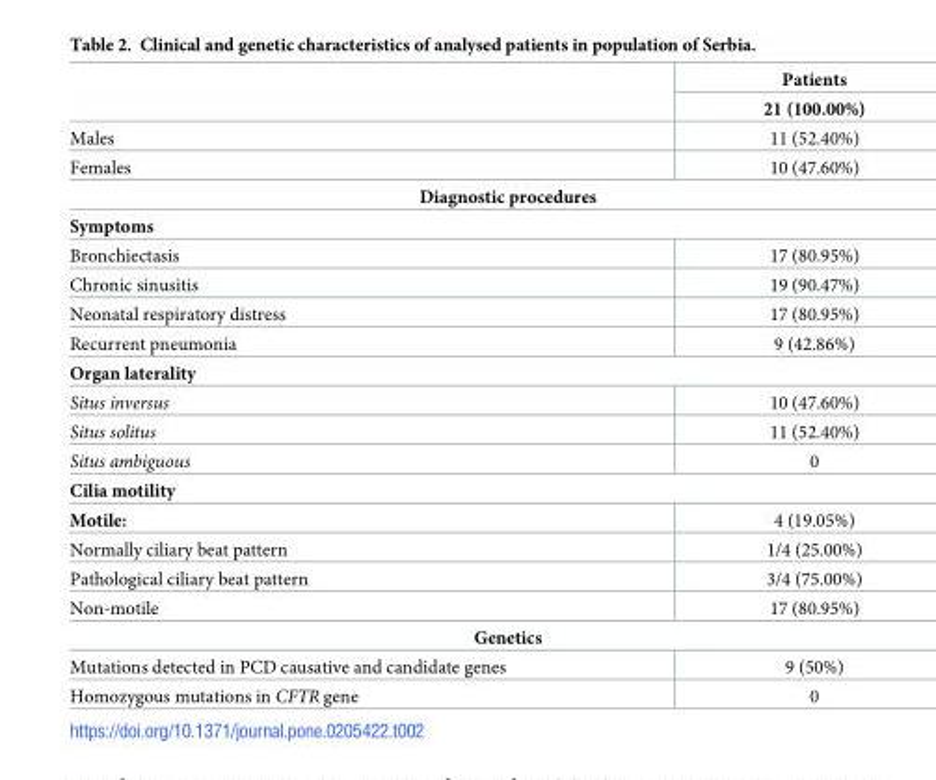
<table><thead><tr><td rowspan="2"></td><td rowspan="2">Patients 21 (100.00%)</td></tr><tr></tr></thead><tbody><tr><td>Males</td><td>11 (52.40%)</td></tr><tr><td>Females</td><td>10 (47.60%)</td></tr><tr><td colspan="2">Diagnostic procedures</td></tr><tr><td colspan="2">Symptoms</td></tr><tr><td>Bronchiectasis</td><td>17 (80.95%)</td></tr><tr><td>Chronic sinusitis</td><td>19 (90.47%)</td></tr><tr><td>Neonatal respiratory distress</td><td>17 (80.95%)</td></tr><tr><td>Recurrent pneumonia</td><td>9 (42.86%)</td></tr><tr><td colspan="2">Organ laterality</td></tr><tr><td>Situs inversus</td><td>10 (47.60%)</td></tr><tr><td>Situs solitus</td><td>11 (52.40%)</td></tr><tr><td>Situs ambiguous</td><td>0</td></tr><tr><td colspan="2">Cilia motility</td></tr><tr><td>Motile:</td><td>4 (19.05%)</td></tr><tr><td>Normally ciliary beat pattern</td><td>1/4 (25.00%)</td></tr><tr><td>Pathological ciliary beat pattern</td><td>3/4 (75.00%)</td></tr><tr><td>Non-motile</td><td>17 (80.95%)</td></tr><tr><td colspan="2">Genetics</td></tr><tr><td>Mutations detected in PCD causative and candidate genes</td><td>9 (50%)</td></tr><tr><td>Homozygous mutations in CFTR gene</td><td>0</td></tr></tbody></table>